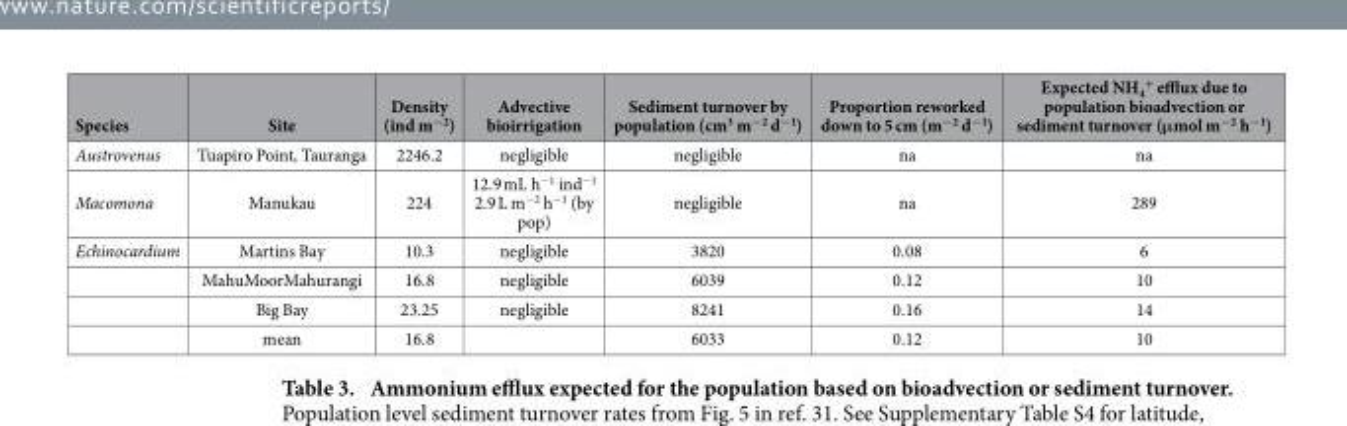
<table><thead><tr><td>Species</td><td>Site</td><td>Density (ind m<sup>−2</sup>)</td><td>Advective bioirrigation</td><td>Sediment turnover by population (cm<sup>3</sup> m<sup>−2</sup> d<sup>−1</sup>)</td><td>Proportion reworked down to 5 cm (m<sup>−2</sup> d<sup>−1</sup>)</td><td>Expected NH<sub>4</sub> <sup>+</sup> efflux due to population bioadvection or sediment turnover (μmol m<sup>−2</sup> h<sup>−1</sup>)</td></tr></thead><tbody><tr><td>Austrovenus</td><td>Tuapiro Point, Tauranga</td><td>2246.2</td><td>negligible</td><td>negligible</td><td>na</td><td>na</td></tr><tr><td>Macomona</td><td>Manukau</td><td>224</td><td>12.9 mL h<sup>−1</sup> ind<sup>−1</sup> 2.9 L m<sup>−2</sup> h<sup>−1</sup> (by pop)</td><td>negligible</td><td>na</td><td>289</td></tr><tr><td rowspan="4">Echinocardium</td><td>Martins Bay</td><td>10.3</td><td>negligible</td><td>3820</td><td>0.08</td><td>6</td></tr><tr><td>MahuMoorMahurangi</td><td>16.8</td><td>negligible</td><td>6039</td><td>0.12</td><td>10</td></tr><tr><td>Big Bay</td><td>23.25</td><td>negligible</td><td>8241</td><td>0.16</td><td>14</td></tr><tr><td>mean</td><td>16.8</td><td></td><td>6033</td><td>0.12</td><td>10</td></tr></tbody></table>